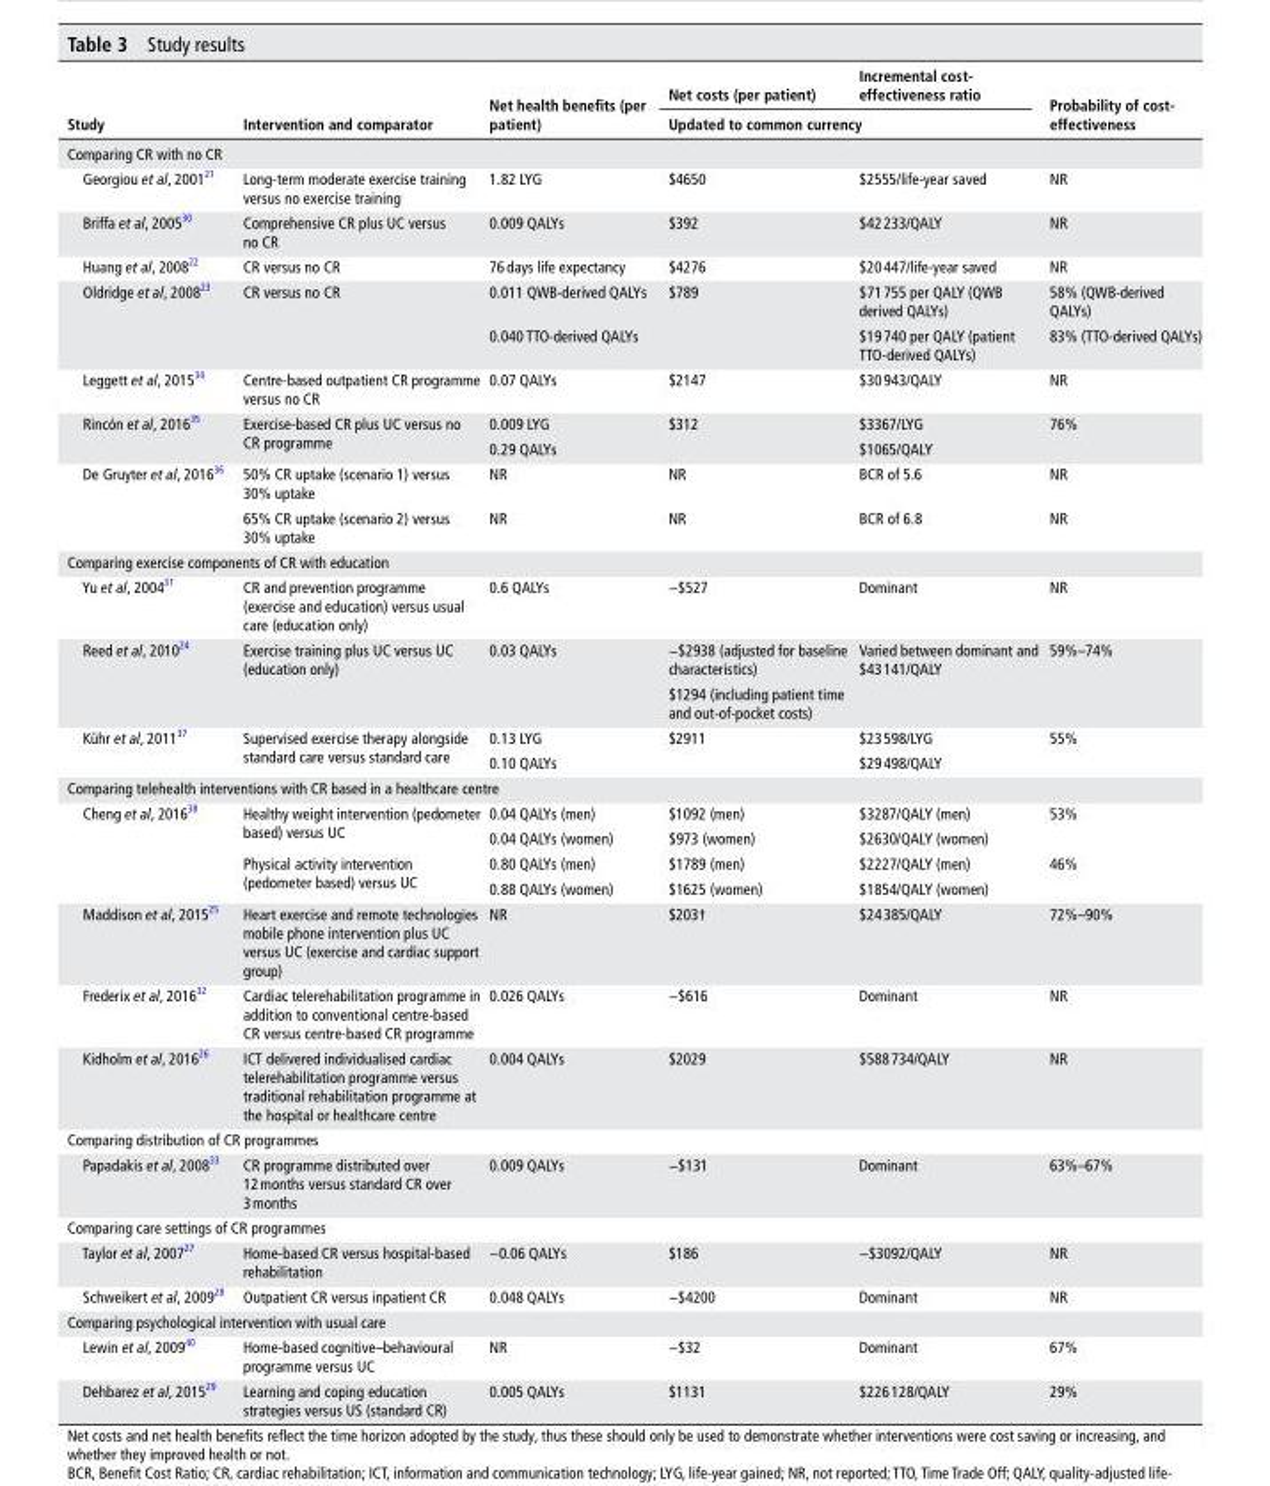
<table><thead><tr><td rowspan="2">study</td><td rowspan="2">Intervention and comparator</td><td rowspan="2">net health benefits (per patient)</td><td>net costs (per patient)</td><td>Incremental cost- effectiveness ratio</td><td rowspan="2">Probability of cost- effectiveness</td></tr><tr><td colspan="2">updated to common currency</td></tr></thead><tbody><tr><td colspan="6">Comparing CR with no CR</td></tr><tr><td>Georgiou et al, 2001<sup>21</sup></td><td>Long-term moderate exercise training versus no exercise training</td><td>1.82 LYG</td><td>$4650</td><td>$2555/life-year saved</td><td>NR</td></tr><tr><td>Briffa et al, 2005<sup>30</sup></td><td>Comprehensive CR plus UC versus no CR</td><td>0.009 QALYs</td><td>$392</td><td>$42 233/QALY</td><td>NR</td></tr><tr><td>Huang et al, 2008<sup>22</sup></td><td>CR versus no CR</td><td>76 days life expectancy</td><td>$4276</td><td>$20 447/life-year saved</td><td>NR</td></tr><tr><td rowspan="2">Oldridge et al, 2008<sup>23</sup></td><td rowspan="2">CR versus no CR</td><td>0.011 QWB-derived QALYs</td><td rowspan="2">$789</td><td>$71 755 per QALY (QWB derived QALYs)</td><td>58% (QWB-derived QALYs)</td></tr><tr><td>0.040 TTO-derived QALYs</td><td>$19 740 per QALY (patient TTO-derived QALYs)</td><td>83% (TTO-derived QALYs)</td></tr><tr><td>Leggett et al, 2015<sup>34</sup></td><td>Centre-based outpatient CR programme versus no CR</td><td>0.07 QALYs</td><td>$2147</td><td>$30 943/QALY</td><td>NR</td></tr><tr><td rowspan="2">Rincón et al, 2016<sup>35</sup></td><td rowspan="2">Exercise-based CR plus UC versus no CR programme</td><td>0.009 LYG</td><td rowspan="2">$312</td><td>$3367/LYG</td><td rowspan="2">76%</td></tr><tr><td>0.29 QALYs</td><td>$1065/QALY</td></tr><tr><td rowspan="2">De Gruyter et al, 2016<sup>36</sup></td><td>50% CR uptake (scenario 1) versus 30% uptake</td><td>NR</td><td>NR</td><td>BCR of 5.6</td><td>NR</td></tr><tr><td>65% CR uptake (scenario 2) versus 30% uptake</td><td>NR</td><td>NR</td><td>BCR of 6.8</td><td>NR</td></tr><tr><td colspan="6">Comparing exercise components of CR with education</td></tr><tr><td>Yu et al, 2004<sup>31</sup></td><td>CR and prevention programme (exercise and education) versus usual care (education only)</td><td>0.6 QALYs</td><td>−$527</td><td>Dominant</td><td>NR</td></tr><tr><td rowspan="2">Reed et al, 2010<sup>24</sup></td><td rowspan="2">Exercise training plus UC versus UC (education only)</td><td rowspan="2">0.03 QALYs</td><td>−$2938 (adjusted for baseline characteristics)</td><td rowspan="2">Varied between dominant and $43 141/QALY</td><td rowspan="2">59%–74%</td></tr><tr><td>$1294 (including patient time and out-of-pocket costs)</td></tr><tr><td rowspan="2">Kühr et al, 2011<sup>37</sup></td><td rowspan="2">Supervised exercise therapy alongside standard care versus standard care</td><td>0.13 LYG</td><td rowspan="2">$2911</td><td>$23 598/LYG</td><td rowspan="2">55%</td></tr><tr><td>0.10 QALYs</td><td>$29 498/QALY</td></tr><tr><td colspan="6">Comparing telehealth interventions with CR based in a healthcare centre</td></tr><tr><td rowspan="4">Cheng et al, 2016<sup>38</sup></td><td rowspan="2">Healthy weight intervention (pedometer based) versus UC</td><td>0.04 QALYs (men)</td><td>$1092 (men)</td><td>$3287/QALY (men)</td><td rowspan="2">53%</td></tr><tr><td>0.04 QALYs (women)</td><td>$973 (women)</td><td>$2630/QALY (women)</td></tr><tr><td rowspan="2">Physical activity intervention (pedometer based) versus UC</td><td>0.80 QALYs (men)</td><td>$1789 (men)</td><td>$2227/QALY (men)</td><td rowspan="2">46%</td></tr><tr><td>0.88 QALYs (women)</td><td>$1625 (women)</td><td>$1854/QALY (women)</td></tr><tr><td>Maddison et al, 2015<sup>25</sup></td><td>Heart exercise and remote technologies mobile phone intervention plus UC versus UC (exercise and cardiac support group)</td><td>NR</td><td>$203†</td><td>$24 385/QALY</td><td>72%–90%</td></tr><tr><td>Frederix et al, 2016<sup>32</sup></td><td>Cardiac telerehabilitation programme in addition to conventional centre-based CR versus centre-based CR programme</td><td>0.026 QALYs</td><td>−$616</td><td>Dominant</td><td>NR</td></tr><tr><td>Kidholm et al, 2016<sup>26</sup></td><td>ICT delivered individualised cardiac telerehabilitation programme versus traditional rehabilitation programme at the hospital or healthcare centre</td><td>0.004 QALYs</td><td>$2029</td><td>$588 734/QALY</td><td>NR</td></tr><tr><td colspan="6">Comparing distribution of CR programmes</td></tr><tr><td>Papadakis et al, 2008<sup>33</sup></td><td>CR programme distributed over 12 months versus standard CR over 3 months</td><td>0.009 QALYs</td><td>−$131</td><td>Dominant</td><td>63%–67%</td></tr><tr><td colspan="6">Comparing care settings of CR programmes</td></tr><tr><td>Taylor et al, 2007<sup>27</sup></td><td>Home-based CR versus hospital-based rehabilitation</td><td>−0.06 QALYs</td><td>$186</td><td>−$3092/QALY</td><td>NR</td></tr><tr><td>Schweikert et al, 2009<sup>28</sup></td><td>Outpatient CR versus inpatient CR</td><td>0.048 QALYs</td><td>−$4200</td><td>Dominant</td><td>NR</td></tr><tr><td colspan="6">Comparing psychological intervention with usual care</td></tr><tr><td>Lewin et al, 2009<sup>40</sup></td><td>Home-based cognitive–behavioural programme versus UC</td><td>NR</td><td>−$32</td><td>Dominant</td><td>67%</td></tr><tr><td>Dehbarez et al, 2015<sup>29</sup></td><td>Learning and coping education strategies versus US (standard CR)</td><td>0.005 QALYs</td><td>$1131</td><td>$226 128/QALY</td><td>29%</td></tr></tbody></table>